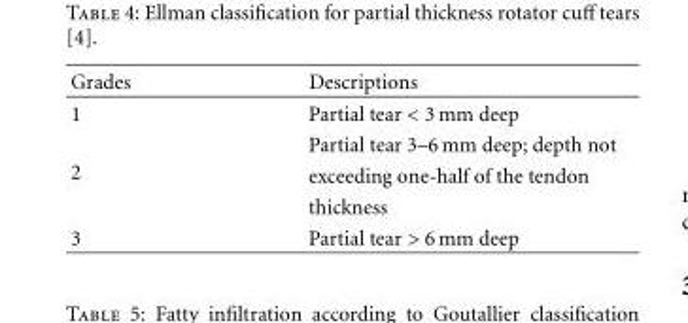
<table><thead><tr><td>Grades</td><td>Descriptions</td></tr></thead><tbody><tr><td>1</td><td>Partial tear &lt; 3 mm deep</td></tr><tr><td rowspan="3">2</td><td>Partial tear 3–6 mm deep; depth not</td></tr><tr><td>exceeding one-half of the tendon</td></tr><tr><td>thickness</td></tr><tr><td>3</td><td>Partial tear &gt; 6 mm deep</td></tr></tbody></table>